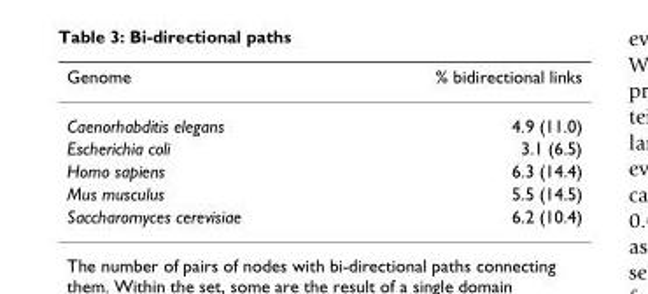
<table><thead><tr><td>Genome</td><td>% bidirectional links</td></tr></thead><tbody><tr><td>Caenorhabditis elegans</td><td>4.9 (11.0)</td></tr><tr><td>Escherichia coli</td><td>3.1 (6.5)</td></tr><tr><td>Homo sapiens</td><td>6.3 (14.4)</td></tr><tr><td>Mus musculus</td><td>5.5 (14.5)</td></tr><tr><td>Saccharomyces cerevisiae</td><td>6.2 (10.4)</td></tr></tbody></table>